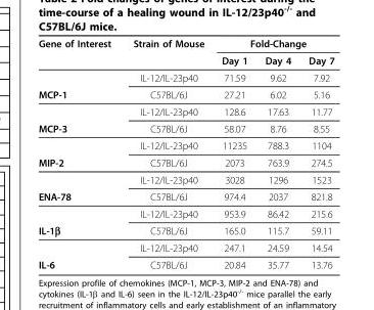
<table><thead><tr><td rowspan="2">Gene of Interest</td><td rowspan="2">Strain of Mouse</td><td colspan="3">Fold-Change</td></tr><tr><td>Day 1</td><td>Day 4</td><td>Day 7</td></tr></thead><tbody><tr><td></td><td>IL-12/IL-23p40</td><td>71.59</td><td>9.62</td><td>7.92</td></tr><tr><td rowspan="2">MCP-1</td><td>C57BL/6J</td><td>27.21</td><td>6.02</td><td>5.16</td></tr><tr><td>IL-12/IL-23p40</td><td>128.6</td><td>17.63</td><td>11.77</td></tr><tr><td rowspan="2">MCP-3</td><td>C57BL/6J</td><td>58.07</td><td>8.76</td><td>8.55</td></tr><tr><td>IL-12/IL-23p40</td><td>11235</td><td>788.3</td><td>1104</td></tr><tr><td rowspan="2">MIP-2</td><td>C57BL/6J</td><td>2073</td><td>763.9</td><td>274.5</td></tr><tr><td>IL-12/IL-23p40</td><td>3028</td><td>1296</td><td>1523</td></tr><tr><td rowspan="2">ENA-78</td><td>C57BL/6J</td><td>974.4</td><td>2037</td><td>821.8</td></tr><tr><td>IL-12/IL-23p40</td><td>953.9</td><td>86.42</td><td>215.6</td></tr><tr><td rowspan="2">IL-1β</td><td>C57BL/6J</td><td>165.0</td><td>115.7</td><td>59.11</td></tr><tr><td>IL-12/IL-23p40</td><td>247.1</td><td>24.59</td><td>14.54</td></tr><tr><td>IL-6</td><td>C57BL/6J</td><td>20.84</td><td>35.77</td><td>13.76</td></tr></tbody></table>